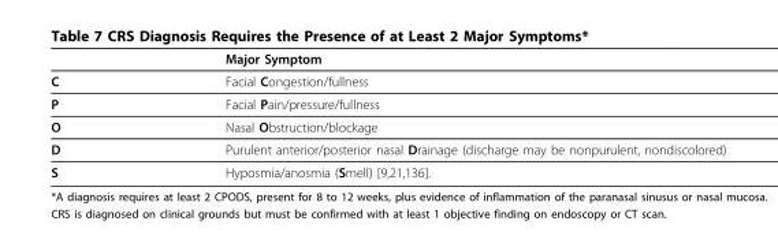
<table><thead><tr><td></td><td>Major Symptom</td></tr></thead><tbody><tr><td>C</td><td>Facial Congestion/fullness</td></tr><tr><td>P</td><td>Facial Pain/pressure/fullness</td></tr><tr><td>O</td><td>Nasal Obstruction/blockage</td></tr><tr><td>D</td><td>Purulent anterior/posterior nasal Drainage (discharge may be nonpurulent, nondiscolored)</td></tr><tr><td>S</td><td>Hyposmia/anosmia (Smell) [9,21,136].</td></tr></tbody></table>